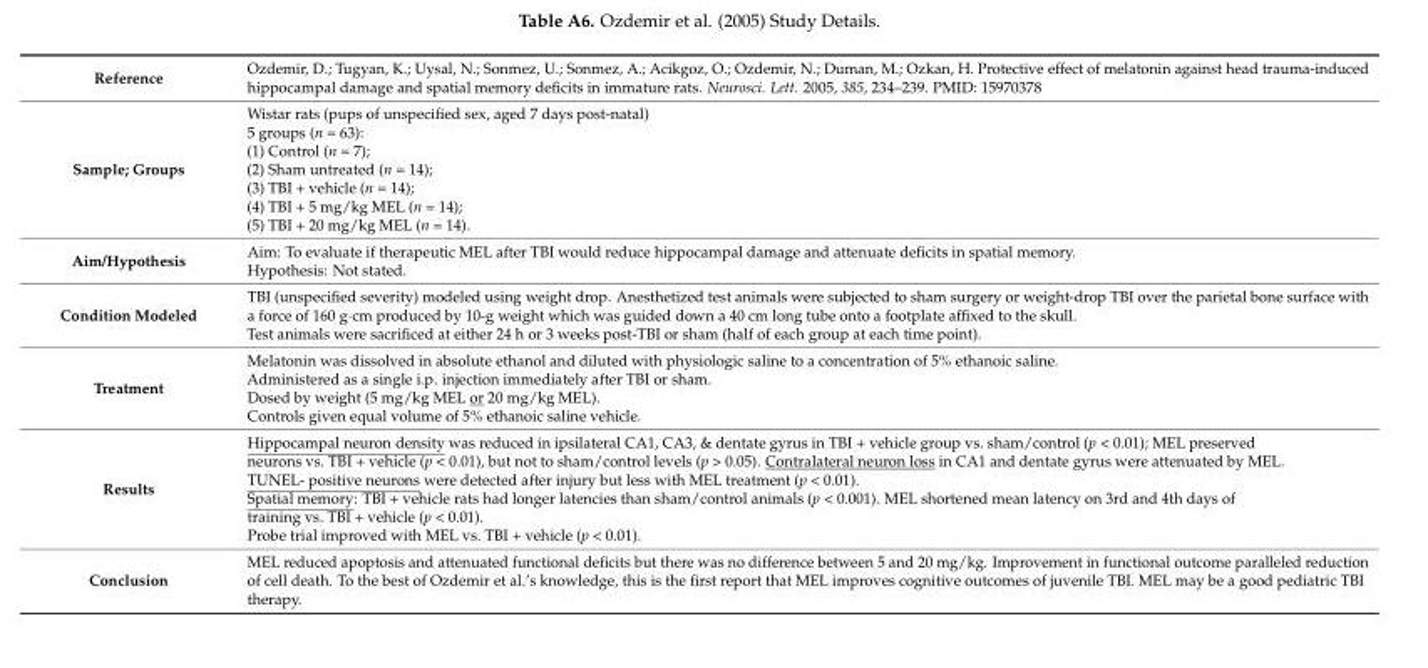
<table><tbody><tr><td>Reference</td><td>Ozdemir, D.; Tugyan, K.; Uysal, N.; Sonmez, U.; Sonmez, A.; Acikgoz, O.; Ozdemir, N.; Duman, M.; Ozkan, H. Protective effect of melatonin against head trauma-induced hippocampal damage and spatial memory deficits in immature rats. Neurosci. Lett. 2005, 385, 234–239. PMID: 15970378</td></tr><tr><td>Sample; Groups</td><td>Wistar rats (pups of unspecified sex, aged 7 days post-natal) 5 groups (n = 63): (1) Control (n = 7); (2) Sham untreated (n = 14); (3) TBI + vehicle (n = 14); (4) TBI + 5 mg/kg MEL (n = 14); (5) TBI + 20 mg/kg MEL (n = 14).</td></tr><tr><td>Aim/Hypothesis</td><td>Aim: To evaluate if therapeutic MEL after TBI would reduce hippocampal damage and attenuate deficits in spatial memory. Hypothesis: Not stated.</td></tr><tr><td>Condition Modeled</td><td>TBI (unspecified severity) modeled using weight drop. Anesthetized test animals were subjected to sham surgery or weight-drop TBI over the parietal bone surface with a force of 160 g·cm produced by 10-g weight which was guided down a 40 cm long tube onto a footplate affixed to the skull. Test animals were sacrificed at either 24 h or 3 weeks post-TBI or sham (half of each group at each time point).</td></tr><tr><td>Treatment</td><td>Melatonin was dissolved in absolute ethanol and diluted with physiologic saline to a concentration of 5% ethanoic saline. Administered as a single i.p. injection immediately after TBI or sham. Dosed by weight (5 mg/kg MEL or 20 mg/kg MEL). Controls given equal volume of 5% ethanoic saline vehicle.</td></tr><tr><td>Results</td><td>Hippocampal neuron density was reduced in ipsilateral CA1, CA3, &amp; dentate gyrus in TBI + vehicle group vs. sham/control (p &lt; 0.01); MEL preserved neurons vs. TBI + vehicle (p &lt; 0.01), but not to sham/control levels (p &gt; 0.05). Contralateral neuron loss in CA1 and dentate gyrus were attenuated by MEL. TUNEL- positive neurons were detected after injury but less with MEL treatment (p &lt; 0.01). Spatial memory: TBI + vehicle rats had longer latencies than sham/control animals (p &lt; 0.001). MEL shortened mean latency on 3rd and 4th days of training vs. TBI + vehicle (p &lt; 0.01). Probe trial improved with MEL vs. TBI + vehicle (p &lt; 0.01).</td></tr><tr><td>Conclusion</td><td>MEL reduced apoptosis and attenuated functional deficits but there was no difference between 5 and 20 mg/kg. Improvement in functional outcome paralleled reduction of cell death. To the best of Ozdemir et al.’s knowledge, this is the first report that MEL improves cognitive outcomes of juvenile TBI. MEL may be a good pediatric TBI therapy.</td></tr></tbody></table>